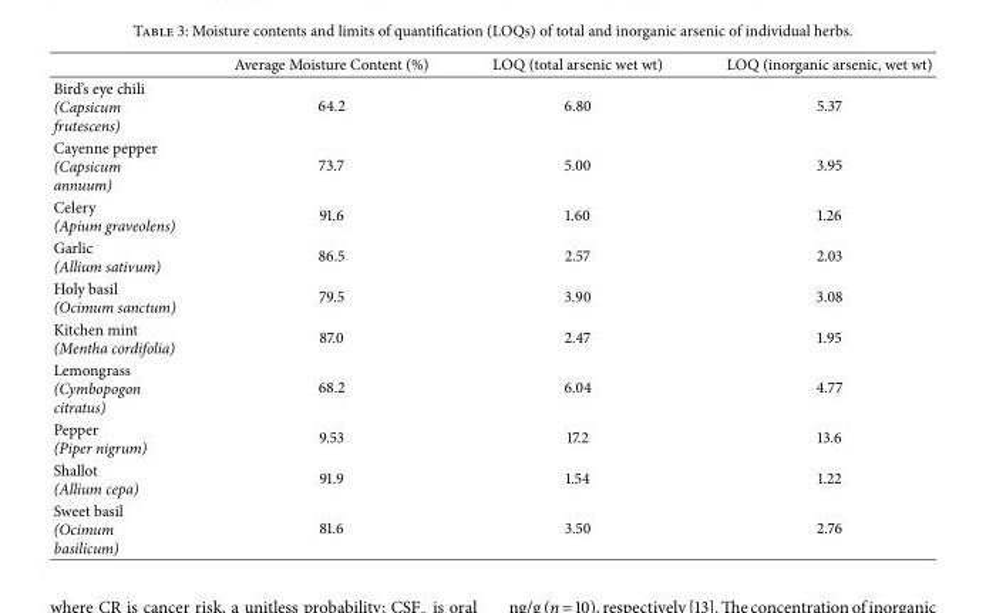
<table><thead><tr><td></td><td>Average Moisture Content (%)</td><td>LOQ (total arsenic wet wt)</td><td>LOQ (inorganic arsenic, wet wt)</td></tr></thead><tbody><tr><td>Bird’s eye chili (Capsicum frutescens)</td><td>64.2</td><td>6.80</td><td>5.37</td></tr><tr><td>Cayenne pepper (Capsicum annuum)</td><td>73.7</td><td>5.00</td><td>3.95</td></tr><tr><td>Celery (Apium graveolens)</td><td>91.6</td><td>1.60</td><td>1.26</td></tr><tr><td>Garlic (Allium sativum)</td><td>86.5</td><td>2.57</td><td>2.03</td></tr><tr><td>Holy basil (Ocimum sanctum)</td><td>79.5</td><td>3.90</td><td>3.08</td></tr><tr><td>Kitchen mint (Mentha cordifolia)</td><td>87.0</td><td>2.47</td><td>1.95</td></tr><tr><td>Lemongrass (Cymbopogon citratus)</td><td>68.2</td><td>6.04</td><td>4.77</td></tr><tr><td>Pepper (Piper nigrum)</td><td>9.53</td><td>17.2</td><td>13.6</td></tr><tr><td>Shallot (Allium cepa)</td><td>91.9</td><td>1.54</td><td>1.22</td></tr><tr><td>Sweet basil (Ocimum basilicum)</td><td>81.6</td><td>3.50</td><td>2.76</td></tr></tbody></table>